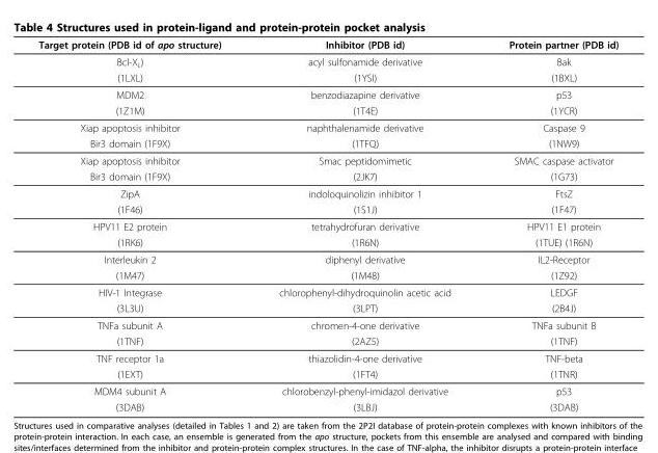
<table><thead><tr><td>Target protein (PDB id of apo structure)</td><td>Inhibitor (PDB id)</td><td>Protein partner (PDB id)</td></tr></thead><tbody><tr><td>Bcl-X<sub>L</sub>)</td><td>acyl sulfonamide derivative</td><td>Bak</td></tr><tr><td>(1LXL)</td><td>(1YSI)</td><td>(1BXL)</td></tr><tr><td>MDM2</td><td>benzodiazapine derivative</td><td>p53</td></tr><tr><td>(1Z1M)</td><td>(1T4E)</td><td>(1YCR)</td></tr><tr><td>Xiap apoptosis inhibitor</td><td>naphthalenamide derivative</td><td>Caspase 9</td></tr><tr><td>Bir3 domain (1F9X)</td><td>(1TFQ)</td><td>(1NW9)</td></tr><tr><td>Xiap apoptosis inhibitor</td><td>Smac peptidomimetic</td><td>SMAC caspase activator</td></tr><tr><td>Bir3 domain (1F9X)</td><td>(2JK7)</td><td>(1G73)</td></tr><tr><td>ZipA</td><td>indoloquinolizin inhibitor 1</td><td>FtsZ</td></tr><tr><td>(1F46)</td><td>(1S1J)</td><td>(1F47)</td></tr><tr><td>HPV11 E2 protein</td><td>tetrahydrofuran derivative</td><td>HPV11 E1 protein</td></tr><tr><td>(1RK6)</td><td>(1R6N)</td><td>(1TUE) (1R6N)</td></tr><tr><td>Interleukin 2</td><td>diphenyl derivative</td><td>IL2-Receptor</td></tr><tr><td>(1M47)</td><td>(1M48)</td><td>(1Z92)</td></tr><tr><td>HIV-1 Integrase</td><td>chlorophenyl-dihydroquinolin acetic acid</td><td>LEDGF</td></tr><tr><td>(3L3U)</td><td>(3LPT)</td><td>(2B4J)</td></tr><tr><td>TNFa subunit A</td><td>chromen-4-one derivative</td><td>TNFa subunit B</td></tr><tr><td>(1TNF)</td><td>(2AZ5)</td><td>(1TNF)</td></tr><tr><td>TNF receptor 1a</td><td>thiazolidin-4-one derivative</td><td>TNF-beta</td></tr><tr><td>(1EXT)</td><td>(1FT4)</td><td>(1TNR)</td></tr><tr><td>MDM4 subunit A</td><td>chlorobenzyl-phenyl-imidazol derivative</td><td>p53</td></tr><tr><td>(3DAB)</td><td>(3LBJ)</td><td>(3DAB)</td></tr></tbody></table>